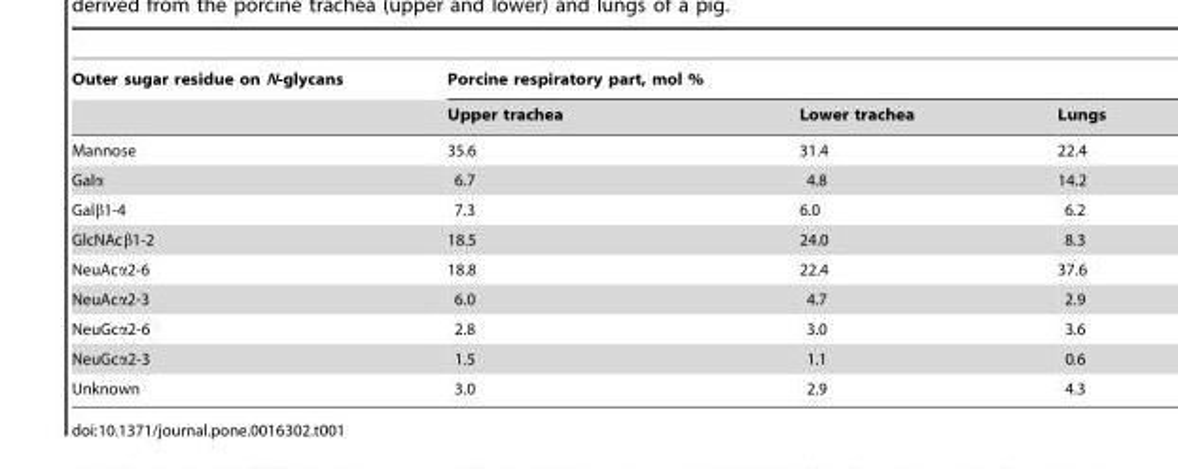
<table><thead><tr><td rowspan="2">Outer sugar residue on N-glycans</td><td colspan="3">Porcine respiratory part, mol %</td></tr><tr><td>Upper trachea</td><td>Lower trachea</td><td>Lungs</td></tr></thead><tbody><tr><td>Mannose</td><td>35.6</td><td>31.4</td><td>22.4</td></tr><tr><td>Galα</td><td>6.7</td><td>4.8</td><td>14.2</td></tr><tr><td>Galβ1-4</td><td>7.3</td><td>6.0</td><td>6.2</td></tr><tr><td>GlcNAcβ1-2</td><td>18.5</td><td>24.0</td><td>8.3</td></tr><tr><td>NeuAcα2-6</td><td>18.8</td><td>22.4</td><td>37.6</td></tr><tr><td>NeuAcα2-3</td><td>6.0</td><td>4.7</td><td>2.9</td></tr><tr><td>NeuGcα2-6</td><td>2.8</td><td>3.0</td><td>3.6</td></tr><tr><td>NeuGcα2-3</td><td>1.5</td><td>1.1</td><td>0.6</td></tr><tr><td>Unknown</td><td>3.0</td><td>2.9</td><td>4.3</td></tr></tbody></table>